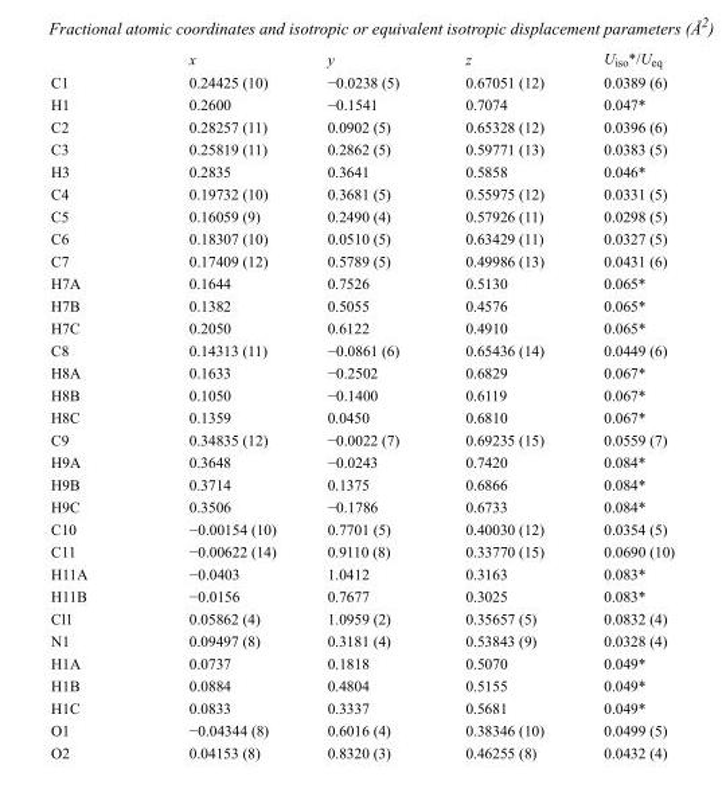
<table><thead><tr><td></td><td>x</td><td>y</td><td>z</td><td>U<sub>iso</sub>*/U<sub>eq</sub></td></tr></thead><tbody><tr><td>C1</td><td>0.24425 (10)</td><td>−0.0238 (5)</td><td>0.67051 (12)</td><td>0.0389 (6)</td></tr><tr><td>H1</td><td>0.2600</td><td>−0.1541</td><td>0.7074</td><td>0.047*</td></tr><tr><td>C2</td><td>0.28257 (11)</td><td>0.0902 (5)</td><td>0.65328 (12)</td><td>0.0396 (6)</td></tr><tr><td>C3</td><td>0.25819 (11)</td><td>0.2862 (5)</td><td>0.59771 (13)</td><td>0.0383 (5)</td></tr><tr><td>H3</td><td>0.2835</td><td>0.3641</td><td>0.5858</td><td>0.046*</td></tr><tr><td>C4</td><td>0.19732 (10)</td><td>0.3681 (5)</td><td>0.55975 (12)</td><td>0.0331 (5)</td></tr><tr><td>C5</td><td>0.16059 (9)</td><td>0.2490 (4)</td><td>0.57926 (11)</td><td>0.0298 (5)</td></tr><tr><td>C6</td><td>0.18307 (10)</td><td>0.0510 (5)</td><td>0.63429 (11)</td><td>0.0327 (5)</td></tr><tr><td>C7</td><td>0.17409 (12)</td><td>0.5789 (5)</td><td>0.49986 (13)</td><td>0.0431 (6)</td></tr><tr><td>H7A</td><td>0.1644</td><td>0.7526</td><td>0.5130</td><td>0.065*</td></tr><tr><td>H7B</td><td>0.1382</td><td>0.5055</td><td>0.4576</td><td>0.065*</td></tr><tr><td>H7C</td><td>0.2050</td><td>0.6122</td><td>0.4910</td><td>0.065*</td></tr><tr><td>C8</td><td>0.14313 (11)</td><td>−0.0861 (6)</td><td>0.65436 (14)</td><td>0.0449 (6)</td></tr><tr><td>H8A</td><td>0.1633</td><td>−0.2502</td><td>0.6829</td><td>0.067*</td></tr><tr><td>H8B</td><td>0.1050</td><td>−0.1400</td><td>0.6119</td><td>0.067*</td></tr><tr><td>H8C</td><td>0.1359</td><td>0.0450</td><td>0.6810</td><td>0.067*</td></tr><tr><td>C9</td><td>0.34835 (12)</td><td>−0.0022 (7)</td><td>0.69235 (15)</td><td>0.0559 (7)</td></tr><tr><td>H9A</td><td>0.3648</td><td>−0.0243</td><td>0.7420</td><td>0.084*</td></tr><tr><td>H9B</td><td>0.3714</td><td>0.1375</td><td>0.6866</td><td>0.084*</td></tr><tr><td>H9C</td><td>0.3506</td><td>−0.1786</td><td>0.6733</td><td>0.084*</td></tr><tr><td>C10</td><td>−0.00154 (10)</td><td>0.7701 (5)</td><td>0.40030 (12)</td><td>0.0354 (5)</td></tr><tr><td>C11</td><td>−0.00622 (14)</td><td>0.9110 (8)</td><td>0.33770 (15)</td><td>0.0690 (10)</td></tr><tr><td>H11A</td><td>−0.0403</td><td>1.0412</td><td>0.3163</td><td>0.083*</td></tr><tr><td>H11B</td><td>−0.0156</td><td>0.7677</td><td>0.3025</td><td>0.083*</td></tr><tr><td>Cl1</td><td>0.05862 (4)</td><td>1.0959 (2)</td><td>0.35657 (5)</td><td>0.0832 (4)</td></tr><tr><td>N1</td><td>0.09497 (8)</td><td>0.3181 (4)</td><td>0.53843 (9)</td><td>0.0328 (4)</td></tr><tr><td>H1A</td><td>0.0737</td><td>0.1818</td><td>0.5070</td><td>0.049*</td></tr><tr><td>H1B</td><td>0.0884</td><td>0.4804</td><td>0.5155</td><td>0.049*</td></tr><tr><td>H1C</td><td>0.0833</td><td>0.3337</td><td>0.5681</td><td>0.049*</td></tr><tr><td>O1</td><td>−0.04344 (8)</td><td>0.6016 (4)</td><td>0.38346 (10)</td><td>0.0499 (5)</td></tr><tr><td>O2</td><td>0.04153 (8)</td><td>0.8320 (3)</td><td>0.46255 (8)</td><td>0.0432 (4)</td></tr></tbody></table>